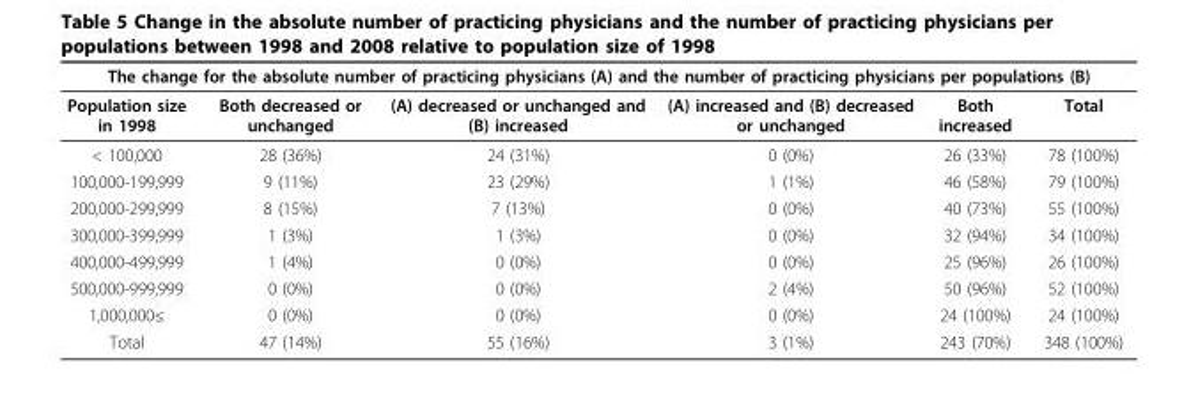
<table><thead><tr><td colspan="6">The change for the absolute number of practicing physicians (A) and the number of practicing physicians per populations (B)</td></tr><tr><td>Population size in 1998</td><td>Both decreased or unchanged</td><td>(A) decreased or unchanged and (B) increased</td><td>(A) increased and (B) decreased or unchanged</td><td>Both increased</td><td>Total</td></tr></thead><tbody><tr><td>&lt; 100,000</td><td>28 (36%)</td><td>24 (31%)</td><td>0 (0%)</td><td>26 (33%)</td><td>78 (100%)</td></tr><tr><td>100,000-199,999</td><td>9 (11%)</td><td>23 (29%)</td><td>1 (1%)</td><td>46 (58%)</td><td>79 (100%)</td></tr><tr><td>200,000-299,999</td><td>8 (15%)</td><td>7 (13%)</td><td>0 (0%)</td><td>40 (73%)</td><td>55 (100%)</td></tr><tr><td>300,000-399,999</td><td>1 (3%)</td><td>1 (3%)</td><td>0 (0%)</td><td>32 (94%)</td><td>34 (100%)</td></tr><tr><td>400,000-499,999</td><td>1 (4%)</td><td>0 (0%)</td><td>0 (0%)</td><td>25 (96%)</td><td>26 (100%)</td></tr><tr><td>500,000-999,999</td><td>0 (0%)</td><td>0 (0%)</td><td>2 (4%)</td><td>50 (96%)</td><td>52 (100%)</td></tr><tr><td>1,000,000≤</td><td>0 (0%)</td><td>0 (0%)</td><td>0 (0%)</td><td>24 (100%)</td><td>24 (100%)</td></tr><tr><td>Total</td><td>47 (14%)</td><td>55 (16%)</td><td>3 (1%)</td><td>243 (70%)</td><td>348 (100%)</td></tr></tbody></table>